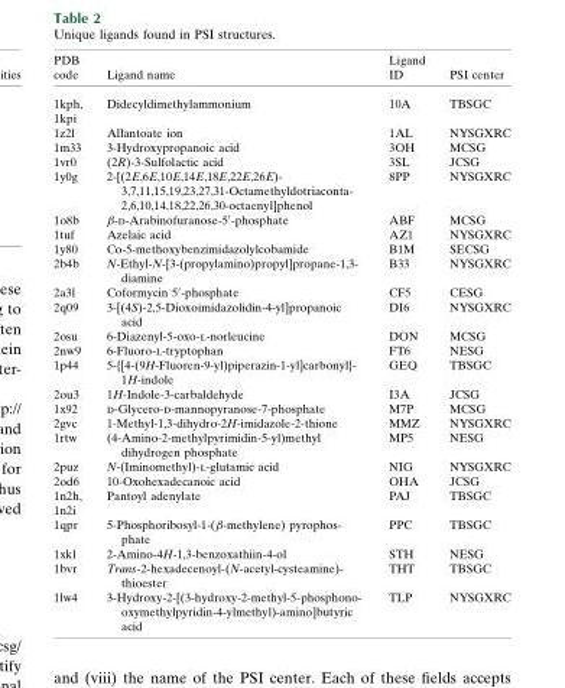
<table><thead><tr><td>PDB code</td><td>Ligand name</td><td>Ligand ID</td><td>PSI center</td></tr></thead><tbody><tr><td>1kph, 1kpi</td><td>Didecyldimethylammonium</td><td>10A</td><td>TBSGC</td></tr><tr><td>1z2l</td><td>Allantoate ion</td><td>1AL</td><td>NYSGXRC</td></tr><tr><td>1m33</td><td>3-Hydroxypropanoic acid</td><td>3OH</td><td>MCSG</td></tr><tr><td>1vr0</td><td>(2R)-3-Sulfolactic acid</td><td>3SL</td><td>JCSG</td></tr><tr><td>1y0g</td><td>2-[(2E,6E,10E,14E,18E,22E,26E)- 3,7,11,15,19,23,27,31-Octamethyldotriaconta- 2,6,10,14,18,22,26,30-octaenyl]phenol</td><td>8PP</td><td>NYSGXRC</td></tr><tr><td>1o8b</td><td>β-d-Arabinofuranose-5′-phosphate</td><td>ABF</td><td>MCSG</td></tr><tr><td>1tuf</td><td>Azelaic acid</td><td>AZ1</td><td>NYSGXRC</td></tr><tr><td>1y80</td><td>Co-5-methoxybenzimidazolylcobamide</td><td>B1M</td><td>SECSG</td></tr><tr><td>2b4b</td><td>N-Ethyl-N-[3-(propylamino)propyl]propane-1,3- diamine</td><td>B33</td><td>NYSGXRC</td></tr><tr><td>2a3l</td><td>Coformycin 5′-phosphate</td><td>CF5</td><td>CESG</td></tr><tr><td>2q09</td><td>3-[(4S)-2,5-Dioxoimidazolidin-4-yl]propanoic acid</td><td>DI6</td><td>NYSGXRC</td></tr><tr><td>2osu</td><td>6-Diazenyl-5-oxo-l-norleucine</td><td>DON</td><td>MCSG</td></tr><tr><td>2nw9</td><td>6-Fluoro-l-tryptophan</td><td>FT6</td><td>NESG</td></tr><tr><td>1p44</td><td>5-{[4-(9H-Fluoren-9-yl)piperazin-1-yl]carbonyl}- 1H-indole</td><td>GEQ</td><td>TBSGC</td></tr><tr><td>2ou3</td><td>1H-Indole-3-carbaldehyde</td><td>I3A</td><td>JCSG</td></tr><tr><td>1x92</td><td>d-Glycero-d-mannopyranose-7-phosphate</td><td>M7P</td><td>MCSG</td></tr><tr><td>2gvc</td><td>1-Methyl-1,3-dihydro-2H-imidazole-2-thione</td><td>MMZ</td><td>NYSGXRC</td></tr><tr><td>1rtw</td><td>(4-Amino-2-methylpyrimidin-5-yl)methyl dihydrogen phosphate</td><td>MP5</td><td>NESG</td></tr><tr><td>2puz</td><td>N-(Iminomethyl)-l-glutamic acid</td><td>NIG</td><td>NYSGXRC</td></tr><tr><td>2od6</td><td>10-Oxohexadecanoic acid</td><td>OHA</td><td>JCSG</td></tr><tr><td>1n2h, 1n2i</td><td>Pantoyl adenylate</td><td>PAJ</td><td>TBSGC</td></tr><tr><td>1qpr</td><td>5-Phosphoribosyl-1-(�-methylene) pyrophos- phate</td><td>PPC</td><td>TBSGC</td></tr><tr><td>1xkl</td><td>2-Amino-4H-1,3-benzoxathiin-4-ol</td><td>STH</td><td>NESG</td></tr><tr><td>1bvr</td><td>Trans-2-hexadecenoyl-(N-acetyl-cysteamine)- thioester</td><td>THT</td><td>TBSGC</td></tr><tr><td>1lw4</td><td>3-Hydroxy-2-[(3-hydroxy-2-methyl-5-phosphono- oxymethylpyridin-4-ylmethyl)-amino]butyric acid</td><td>TLP</td><td>NYSGXRC</td></tr></tbody></table>